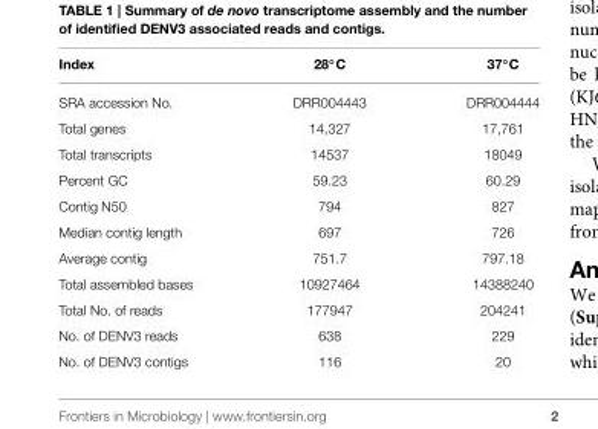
<table><thead><tr><td>Index</td><td>28◦C</td><td>37◦C</td></tr></thead><tbody><tr><td>SRA accession No.</td><td>DRR004443</td><td>DRR004444</td></tr><tr><td>Total genes</td><td>14,327</td><td>17,761</td></tr><tr><td>Total transcripts</td><td>14537</td><td>18049</td></tr><tr><td>Percent GC</td><td>59.23</td><td>60.29</td></tr><tr><td>Contig N50</td><td>794</td><td>827</td></tr><tr><td>Median contig length</td><td>697</td><td>726</td></tr><tr><td>Average contig</td><td>751.7</td><td>797.18</td></tr><tr><td>Total assembled bases</td><td>10927464</td><td>14388240</td></tr><tr><td>Total No. of reads</td><td>177947</td><td>204241</td></tr><tr><td>No. of DENV3 reads</td><td>638</td><td>229</td></tr><tr><td>No. of DENV3 contigs</td><td>116</td><td>20</td></tr></tbody></table>